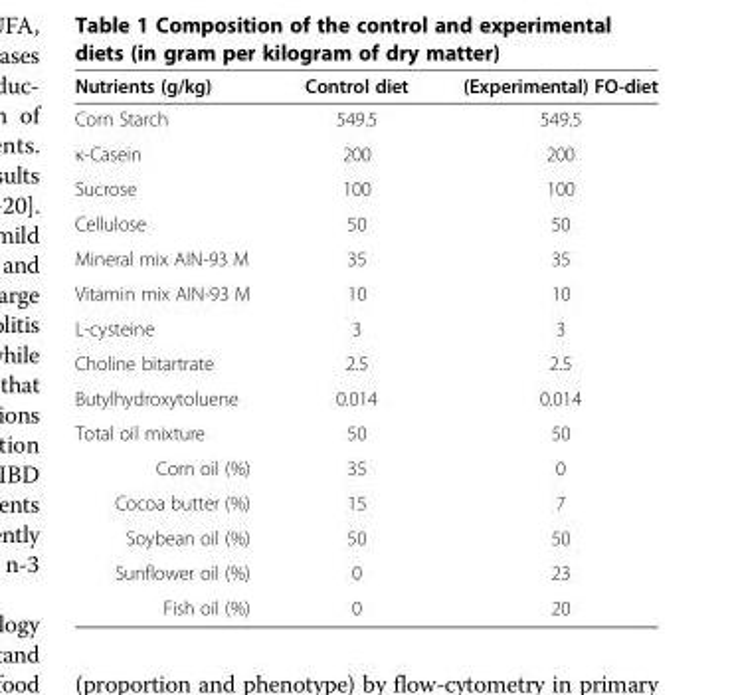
<table><thead><tr><td>Nutrients (g/kg)</td><td>Control diet</td><td>(Experimental) FO-diet</td></tr></thead><tbody><tr><td>Corn Starch</td><td>549.5</td><td>549.5</td></tr><tr><td>κ-Casein</td><td>200</td><td>200</td></tr><tr><td>Sucrose</td><td>100</td><td>100</td></tr><tr><td>Cellulose</td><td>50</td><td>50</td></tr><tr><td>Mineral mix AIN-93 M</td><td>35</td><td>35</td></tr><tr><td>Vitamin mix AIN-93 M</td><td>10</td><td>10</td></tr><tr><td>L-cysteine</td><td>3</td><td>3</td></tr><tr><td>Choline bitartrate</td><td>2.5</td><td>2.5</td></tr><tr><td>Butylhydroxytoluene</td><td>0.014</td><td>0.014</td></tr><tr><td>Total oil mixture</td><td>50</td><td>50</td></tr><tr><td>Corn oil (%)</td><td>35</td><td>0</td></tr><tr><td>Cocoa butter (%)</td><td>15</td><td>7</td></tr><tr><td>Soybean oil (%)</td><td>50</td><td>50</td></tr><tr><td>Sunflower oil (%)</td><td>0</td><td>23</td></tr><tr><td>Fish oil (%)</td><td>0</td><td>20</td></tr></tbody></table>